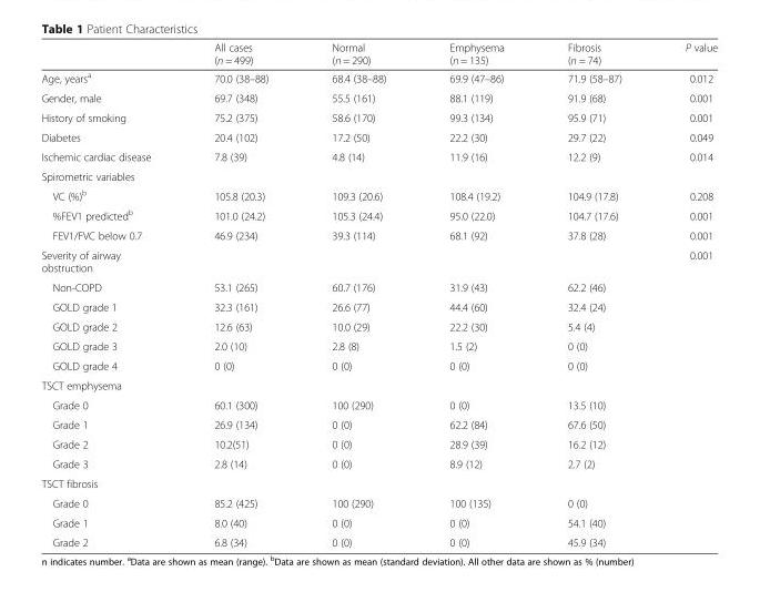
<table><thead><tr><td></td><td>All cases (n = 499)</td><td>Normal (n = 290)</td><td>Emphysema (n = 135)</td><td>Fibrosis (n = 74)</td><td>P value</td></tr></thead><tbody><tr><td>Age, years<sup>a</sup></td><td>70.0 (38–88)</td><td>68.4 (38–88)</td><td>69.9 (47–86)</td><td>71.9 (58–87)</td><td>0.012</td></tr><tr><td>Gender, male</td><td>69.7 (348)</td><td>55.5 (161)</td><td>88.1 (119)</td><td>91.9 (68)</td><td>0.001</td></tr><tr><td>History of smoking</td><td>75.2 (375)</td><td>58.6 (170)</td><td>99.3 (134)</td><td>95.9 (71)</td><td>0.001</td></tr><tr><td>Diabetes</td><td>20.4 (102)</td><td>17.2 (50)</td><td>22.2 (30)</td><td>29.7 (22)</td><td>0.049</td></tr><tr><td>Ischemic cardiac disease</td><td>7.8 (39)</td><td>4.8 (14)</td><td>11.9 (16)</td><td>12.2 (9)</td><td>0.014</td></tr><tr><td colspan="6">Spirometric variables</td></tr><tr><td>VC (%)<sup>b</sup></td><td>105.8 (20.3)</td><td>109.3 (20.6)</td><td>108.4 (19.2)</td><td>104.9 (17.8)</td><td>0.208</td></tr><tr><td>%FEV1 predicted<sup>b</sup></td><td>101.0 (24.2)</td><td>105.3 (24.4)</td><td>95.0 (22.0)</td><td>104.7 (17.6)</td><td>0.001</td></tr><tr><td>FEV1/FVC below 0.7</td><td>46.9 (234)</td><td>39.3 (114)</td><td>68.1 (92)</td><td>37.8 (28)</td><td>0.001</td></tr><tr><td>Severity of airway obstruction</td><td></td><td></td><td></td><td></td><td>0.001</td></tr><tr><td>Non-COPD</td><td>53.1 (265)</td><td>60.7 (176)</td><td>31.9 (43)</td><td>62.2 (46)</td><td></td></tr><tr><td>GOLD grade 1</td><td>32.3 (161)</td><td>26.6 (77)</td><td>44.4 (60)</td><td>32.4 (24)</td><td></td></tr><tr><td>GOLD grade 2</td><td>12.6 (63)</td><td>10.0 (29)</td><td>22.2 (30)</td><td>5.4 (4)</td><td></td></tr><tr><td>GOLD grade 3</td><td>2.0 (10)</td><td>2.8 (8)</td><td>1.5 (2)</td><td>0 (0)</td><td></td></tr><tr><td>GOLD grade 4</td><td>0 (0)</td><td>0 (0)</td><td>0 (0)</td><td>0 (0)</td><td></td></tr><tr><td colspan="6">TSCT emphysema</td></tr><tr><td>Grade 0</td><td>60.1 (300)</td><td>100 (290)</td><td>0 (0)</td><td>13.5 (10)</td><td></td></tr><tr><td>Grade 1</td><td>26.9 (134)</td><td>0 (0)</td><td>62.2 (84)</td><td>67.6 (50)</td><td></td></tr><tr><td>Grade 2</td><td>10.2(51)</td><td>0 (0)</td><td>28.9 (39)</td><td>16.2 (12)</td><td></td></tr><tr><td>Grade 3</td><td>2.8 (14)</td><td>0 (0)</td><td>8.9 (12)</td><td>2.7 (2)</td><td></td></tr><tr><td colspan="6">TSCT fibrosis</td></tr><tr><td>Grade 0</td><td>85.2 (425)</td><td>100 (290)</td><td>100 (135)</td><td>0 (0)</td><td></td></tr><tr><td>Grade 1</td><td>8.0 (40)</td><td>0 (0)</td><td>0 (0)</td><td>54.1 (40)</td><td></td></tr><tr><td>Grade 2</td><td>6.8 (34)</td><td>0 (0)</td><td>0 (0)</td><td>45.9 (34)</td><td></td></tr></tbody></table>